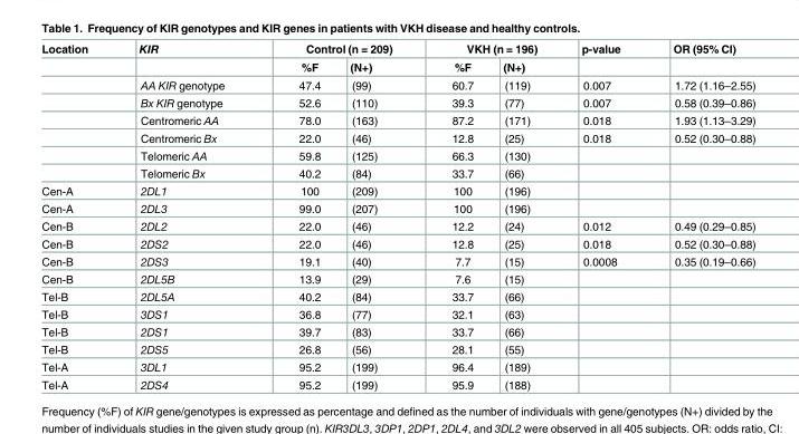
<table><thead><tr><td rowspan="2">Location</td><td rowspan="2">KIR</td><td colspan="2">Control (n = 209)</td><td colspan="2">VKH (n = 196)</td><td rowspan="2">p-value</td><td rowspan="2">OR (95% CI)</td></tr><tr><td>%F</td><td>(N+)</td><td>%F</td><td>(N+)</td></tr></thead><tbody><tr><td></td><td>AA KIR genotype</td><td>47.4</td><td>(99)</td><td>60.7</td><td>(119)</td><td>0.007</td><td>1.72 (1.16–2.55)</td></tr><tr><td></td><td>Bx KIR genotype</td><td>52.6</td><td>(110)</td><td>39.3</td><td>(77)</td><td>0.007</td><td>0.58 (0.39–0.86)</td></tr><tr><td></td><td>Centromeric AA</td><td>78.0</td><td>(163)</td><td>87.2</td><td>(171)</td><td>0.018</td><td>1.93 (1.13–3.29)</td></tr><tr><td></td><td>Centromeric Bx</td><td>22.0</td><td>(46)</td><td>12.8</td><td>(25)</td><td>0.018</td><td>0.52 (0.30–0.88)</td></tr><tr><td></td><td>Telomeric AA</td><td>59.8</td><td>(125)</td><td>66.3</td><td>(130)</td><td></td><td></td></tr><tr><td></td><td>Telomeric Bx</td><td>40.2</td><td>(84)</td><td>33.7</td><td>(66)</td><td></td><td></td></tr><tr><td>Cen-A</td><td>2DL1</td><td>100</td><td>(209)</td><td>100</td><td>(196)</td><td></td><td></td></tr><tr><td>Cen-A</td><td>2DL3</td><td>99.0</td><td>(207)</td><td>100</td><td>(196)</td><td></td><td></td></tr><tr><td>Cen-B</td><td>2DL2</td><td>22.0</td><td>(46)</td><td>12.2</td><td>(24)</td><td>0.012</td><td>0.49 (0.29–0.85)</td></tr><tr><td>Cen-B</td><td>2DS2</td><td>22.0</td><td>(46)</td><td>12.8</td><td>(25)</td><td>0.018</td><td>0.52 (0.30–0.88)</td></tr><tr><td>Cen-B</td><td>2DS3</td><td>19.1</td><td>(40)</td><td>7.7</td><td>(15)</td><td>0.0008</td><td>0.35 (0.19–0.66)</td></tr><tr><td>Cen-B</td><td>2DL5B</td><td>13.9</td><td>(29)</td><td>7.6</td><td>(15)</td><td></td><td></td></tr><tr><td>Tel-B</td><td>2DL5A</td><td>40.2</td><td>(84)</td><td>33.7</td><td>(66)</td><td></td><td></td></tr><tr><td>Tel-B</td><td>3DS1</td><td>36.8</td><td>(77)</td><td>32.1</td><td>(63)</td><td></td><td></td></tr><tr><td>Tel-B</td><td>2DS1</td><td>39.7</td><td>(83)</td><td>33.7</td><td>(66)</td><td></td><td></td></tr><tr><td>Tel-B</td><td>2DS5</td><td>26.8</td><td>(56)</td><td>28.1</td><td>(55)</td><td></td><td></td></tr><tr><td>Tel-A</td><td>3DL1</td><td>95.2</td><td>(199)</td><td>96.4</td><td>(189)</td><td></td><td></td></tr><tr><td>Tel-A</td><td>2DS4</td><td>95.2</td><td>(199)</td><td>95.9</td><td>(188)</td><td></td><td></td></tr></tbody></table>